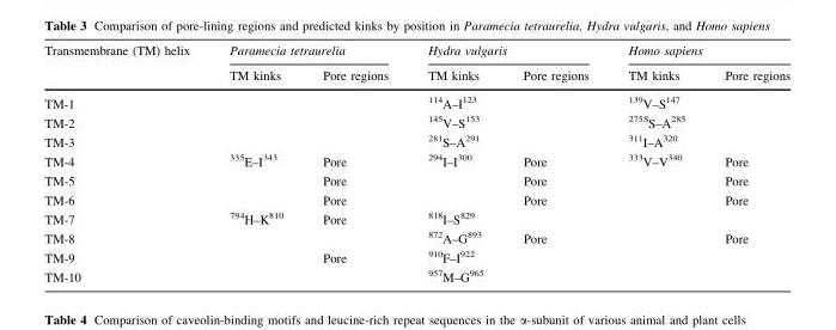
<table><thead><tr><td rowspan="2">Transmembrane (TM) helix</td><td colspan="2">Paramecia tetraurelia</td><td colspan="2">Hydra vulgaris</td><td colspan="2">Homo sapiens</td></tr><tr><td>TM kinks</td><td>Pore regions</td><td>TM kinks</td><td>Pore regions</td><td>TM kinks</td><td>Pore regions</td></tr></thead><tbody><tr><td>TM-1</td><td></td><td></td><td><sup>114</sup>A–I<sup>123</sup></td><td></td><td><sup>139</sup>V–S<sup>147</sup></td><td></td></tr><tr><td>TM-2</td><td></td><td></td><td><sup>145</sup>V–S<sup>153</sup></td><td></td><td><sup>275S</sup>S–A<sup>285</sup></td><td></td></tr><tr><td>TM-3</td><td></td><td></td><td><sup>281</sup>S–A<sup>291</sup></td><td></td><td><sup>311</sup>I–A<sup>320</sup></td><td></td></tr><tr><td>TM-4</td><td><sup>335</sup>E–I<sup>343</sup></td><td>Pore</td><td><sup>294</sup>I–I<sup>300</sup></td><td>Pore</td><td><sup>333</sup>V–V<sup>340</sup></td><td>Pore</td></tr><tr><td>TM-5</td><td></td><td>Pore</td><td></td><td>Pore</td><td></td><td>Pore</td></tr><tr><td>TM-6</td><td></td><td>Pore</td><td></td><td>Pore</td><td></td><td>Pore</td></tr><tr><td>TM-7</td><td><sup>794</sup>H–K<sup>810</sup></td><td>Pore</td><td><sup>818</sup>I–S<sup>829</sup></td><td></td><td></td><td></td></tr><tr><td>TM-8</td><td></td><td></td><td><sup>872</sup>A–G<sup>893</sup></td><td>Pore</td><td></td><td>Pore</td></tr><tr><td>TM-9</td><td></td><td>Pore</td><td><sup>910</sup>F–I<sup>922</sup></td><td></td><td></td><td></td></tr><tr><td>TM-10</td><td></td><td></td><td><sup>957</sup>M–G<sup>965</sup></td><td></td><td></td><td></td></tr></tbody></table>